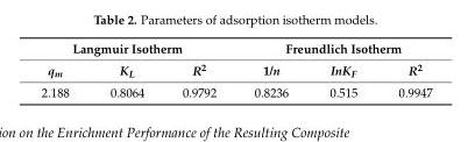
<table><thead><tr><td colspan="3">Langmuir Isotherm</td><td colspan="3">Freundlich Isotherm</td></tr><tr><td>q<sub>m</sub></td><td>K<sub>L</sub></td><td>R<sup>2</sup></td><td>1/n</td><td>InK<sub>F</sub></td><td>R<sup>2</sup></td></tr></thead><tbody><tr><td>2.188</td><td>0.8064</td><td>0.9792</td><td>0.8236</td><td>0.515</td><td>0.9947</td></tr></tbody></table>